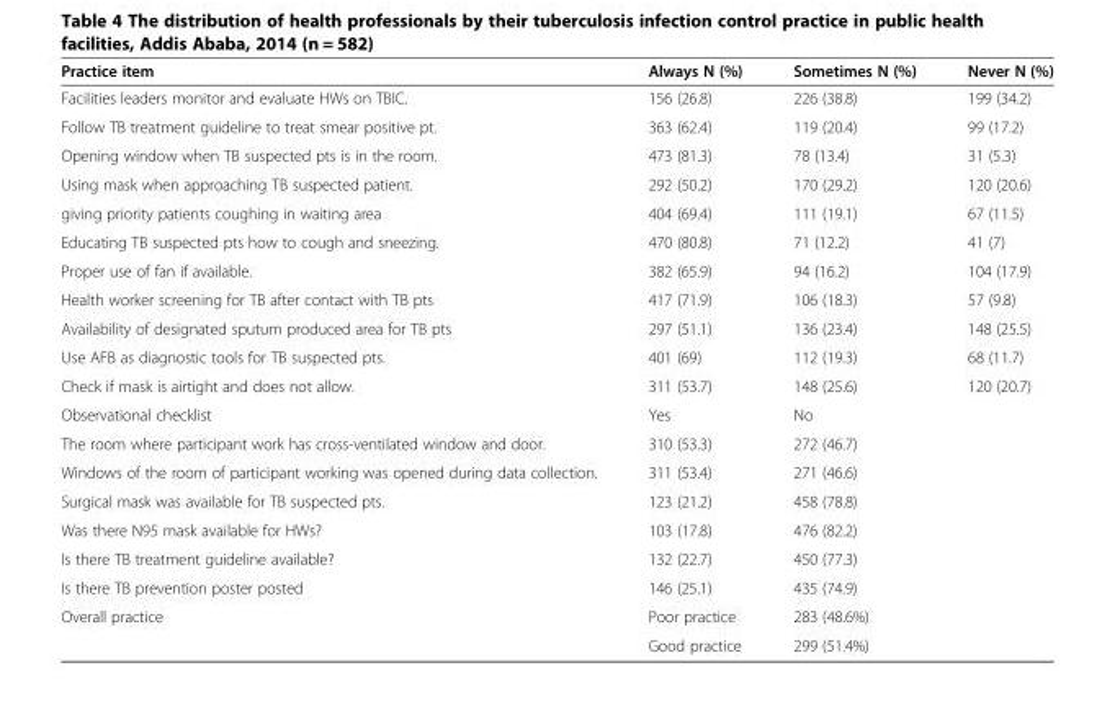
<table><thead><tr><td>Practice item</td><td>Always N (%)</td><td>Sometimes N (%)</td><td>Never N (%)</td></tr></thead><tbody><tr><td>Facilities leaders monitor and evaluate HWs on TBIC.</td><td>156 (26.8)</td><td>226 (38.8)</td><td>199 (34.2)</td></tr><tr><td>Follow TB treatment guideline to treat smear positive pt.</td><td>363 (62.4)</td><td>119 (20.4)</td><td>99 (17.2)</td></tr><tr><td>Opening window when TB suspected pts is in the room.</td><td>473 (81.3)</td><td>78 (13.4)</td><td>31 (5.3)</td></tr><tr><td>Using mask when approaching TB suspected patient.</td><td>292 (50.2)</td><td>170 (29.2)</td><td>120 (20.6)</td></tr><tr><td>giving priority patients coughing in waiting area</td><td>404 (69.4)</td><td>111 (19.1)</td><td>67 (11.5)</td></tr><tr><td>Educating TB suspected pts how to cough and sneezing.</td><td>470 (80.8)</td><td>71 (12.2)</td><td>41 (7)</td></tr><tr><td>Proper use of fan if available.</td><td>382 (65.9)</td><td>94 (16.2)</td><td>104 (17.9)</td></tr><tr><td>Health worker screening for TB after contact with TB pts</td><td>417 (71.9)</td><td>106 (18.3)</td><td>57 (9.8)</td></tr><tr><td>Availability of designated sputum produced area for TB pts</td><td>297 (51.1)</td><td>136 (23.4)</td><td>148 (25.5)</td></tr><tr><td>Use AFB as diagnostic tools for TB suspected pts.</td><td>401 (69)</td><td>112 (19.3)</td><td>68 (11.7)</td></tr><tr><td>Check if mask is airtight and does not allow.</td><td>311 (53.7)</td><td>148 (25.6)</td><td>120 (20.7)</td></tr><tr><td>Observational checklist</td><td>Yes</td><td>No</td><td></td></tr><tr><td>The room where participant work has cross-ventilated window and door.</td><td>310 (53.3)</td><td>272 (46.7)</td><td></td></tr><tr><td>Windows of the room of participant working was opened during data collection.</td><td>311 (53.4)</td><td>271 (46.6)</td><td></td></tr><tr><td>Surgical mask was available for TB suspected pts.</td><td>123 (21.2)</td><td>458 (78.8)</td><td></td></tr><tr><td>Was there N95 mask available for HWs?</td><td>103 (17.8)</td><td>476 (82.2)</td><td></td></tr><tr><td>Is there TB treatment guideline available?</td><td>132 (22.7)</td><td>450 (77.3)</td><td></td></tr><tr><td>Is there TB prevention poster posted</td><td>146 (25.1)</td><td>435 (74.9)</td><td></td></tr><tr><td rowspan="2">Overall practice</td><td>Poor practice</td><td colspan="2">283 (48.6%)</td></tr><tr><td>Good practice</td><td colspan="2">299 (51.4%)</td></tr></tbody></table>